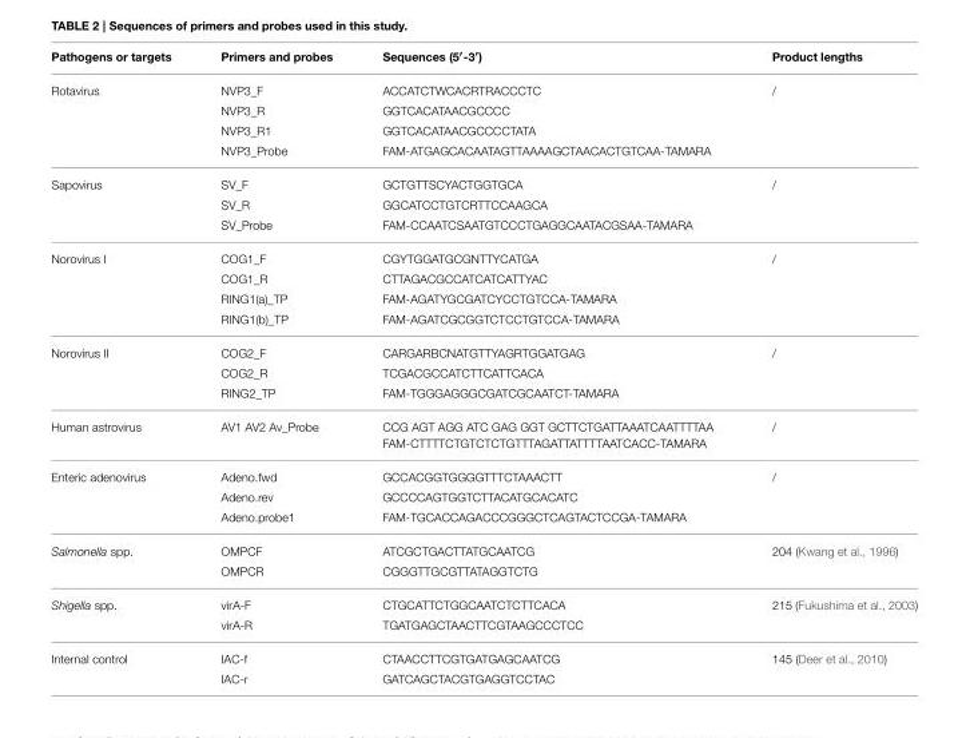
<table><thead><tr><td>Pathogens or targets</td><td>Primers and probes</td><td>Sequences (5′-3′)</td><td>Product lengths</td></tr></thead><tbody><tr><td rowspan="4">Rotavirus</td><td>NVP3_F</td><td>ACCATCTWCACRTRACCCTC</td><td>/</td></tr><tr><td>NVP3_R</td><td>GGTCACATAACGCCCC</td><td></td></tr><tr><td>NVP3_R1</td><td>GGTCACATAACGCCCCTATA</td><td></td></tr><tr><td>NVP3_Probe</td><td>FAM-ATGAGCACAATAGTTAAAAGCTAACACTGTCAA-TAMARA</td><td></td></tr><tr><td rowspan="3">Sapovirus</td><td>SV_F</td><td>GCTGTTSCYACTGGTGCA</td><td>/</td></tr><tr><td>SV_R</td><td>GGCATCCTGTCRTTCCAAGCA</td><td></td></tr><tr><td>SV_Probe</td><td>FAM-CCAATCSAATGTCCCTGAGGCAATACGSAA-TAMARA</td><td></td></tr><tr><td rowspan="4">Norovirus I</td><td>COG1_F</td><td>CGYTGGATGCGNTTYCATGA</td><td>/</td></tr><tr><td>COG1_R</td><td>CTTAGACGCCATCATCATTYAC</td><td></td></tr><tr><td>RING1(a)_TP</td><td>FAM-AGATYGCGATCYCCTGTCCA-TAMARA</td><td></td></tr><tr><td>RING1(b)_TP</td><td>FAM-AGATCGCGGTCTCCTGTCCA-TAMARA</td><td></td></tr><tr><td rowspan="3">Norovirus II</td><td>COG2_F</td><td>CARGARBCNATGTTYAGRTGGATGAG</td><td>/</td></tr><tr><td>COG2_R</td><td>TCGACGCCATCTTCATTCACA</td><td></td></tr><tr><td>RING2_TP</td><td>FAM-TGGGAGGGCGATCGCAATCT-TAMARA</td><td></td></tr><tr><td>Human astrovirus</td><td>AV1 AV2 Av_Probe</td><td>CCG AGT AGG ATC GAG GGT GCTTCTGATTAAATCAATTTTAA FAM-CTTTTCTGTCTCTGTTTAGATTATTTTAATCACC-TAMARA</td><td>/</td></tr><tr><td rowspan="3">Enteric adenovirus</td><td>Adeno.fwd</td><td>GCCACGGTGGGGTTTCTAAACTT</td><td>/</td></tr><tr><td>Adeno.rev</td><td>GCCCCAGTGGTCTTACATGCACATC</td><td></td></tr><tr><td>Adeno.probe1</td><td>FAM-TGCACCAGACCCGGGCTCAGTACTCCGA-TAMARA</td><td></td></tr><tr><td rowspan="2">Salmonella spp.</td><td>OMPCF</td><td>ATCGCTGACTTATGCAATCG</td><td>204 (Kwang et al., 1996)</td></tr><tr><td>OMPCR</td><td>CGGGTTGCGTTATAGGTCTG</td><td></td></tr><tr><td rowspan="2">Shigella spp.</td><td>virA-F</td><td>CTGCATTCTGGCAATCTCTTCACA</td><td>215 (Fukushima et al., 2003)</td></tr><tr><td>virA-R</td><td>TGATGAGCTAACTTCGTAAGCCCTCC</td><td></td></tr><tr><td rowspan="2">Internal control</td><td>IAC-f</td><td>CTAACCTTCGTGATGAGCAATCG</td><td>145 (Deer et al., 2010)</td></tr><tr><td>IAC-r</td><td>GATCAGCTACGTGAGGTCCTAC</td><td></td></tr></tbody></table>